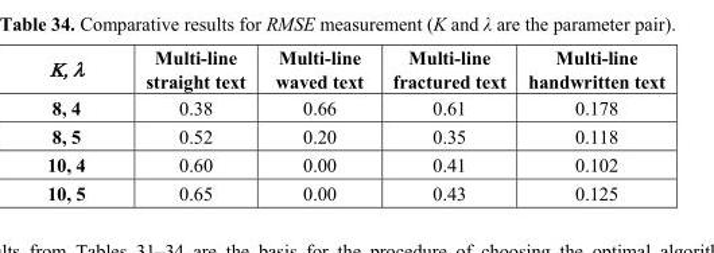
<table><thead><tr><td>Κ, λ</td><td>Multi-line straight text</td><td>Multi-line waved text</td><td>Multi-line fractured text</td><td>Multi-line handwritten text</td></tr></thead><tbody><tr><td>8, 4</td><td>0.38</td><td>0.66</td><td>0.61</td><td>0.178</td></tr><tr><td>8, 5</td><td>0.52</td><td>0.20</td><td>0.35</td><td>0.118</td></tr><tr><td>10, 4</td><td>0.60</td><td>0.00</td><td>0.41</td><td>0.102</td></tr><tr><td>10, 5</td><td>0.65</td><td>0.00</td><td>0.43</td><td>0.125</td></tr></tbody></table>